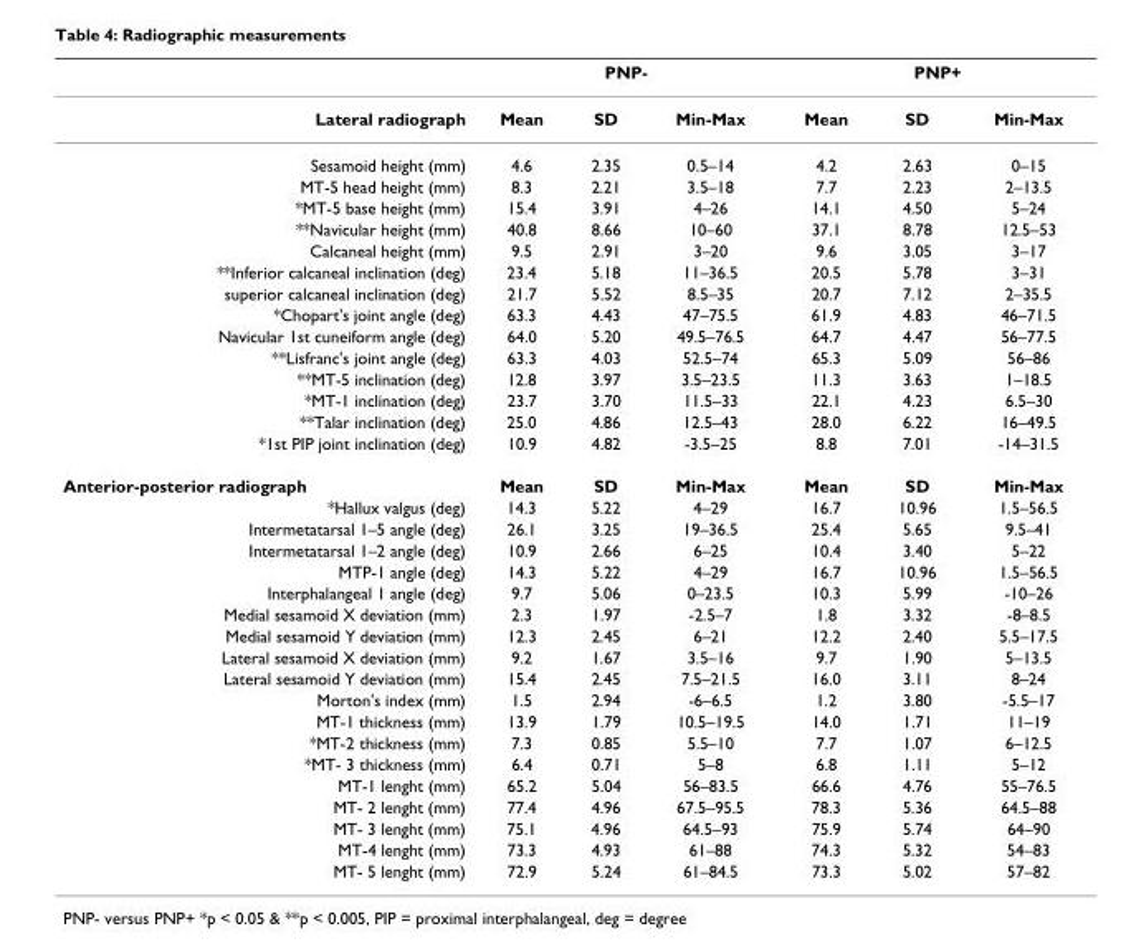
<table><thead><tr><td rowspan="2">Lateral radiograph</td><td colspan="3">PNP-</td><td colspan="3">PNP+</td></tr><tr><td>Mean</td><td>SD</td><td>Min-Max</td><td>Mean</td><td>SD</td><td>Min-Max</td></tr></thead><tbody><tr><td>Sesamoid height (mm)</td><td>4.6</td><td>2.35</td><td>0.5–14</td><td>4.2</td><td>2.63</td><td>0–15</td></tr><tr><td>MT-5 head height (mm)</td><td>8.3</td><td>2.21</td><td>3.5–18</td><td>7.7</td><td>2.23</td><td>2–13.5</td></tr><tr><td>*MT-5 base height (mm)</td><td>15.4</td><td>3.91</td><td>4–26</td><td>14.1</td><td>4.50</td><td>5–24</td></tr><tr><td>**Navicular height (mm)</td><td>40.8</td><td>8.66</td><td>10–60</td><td>37.1</td><td>8.78</td><td>12.5–53</td></tr><tr><td>Calcaneal height (mm)</td><td>9.5</td><td>2.91</td><td>3–20</td><td>9.6</td><td>3.05</td><td>3–17</td></tr><tr><td>**Inferior calcaneal inclination (deg)</td><td>23.4</td><td>5.18</td><td>11–36.5</td><td>20.5</td><td>5.78</td><td>3–31</td></tr><tr><td>superior calcaneal inclination (deg)</td><td>21.7</td><td>5.52</td><td>8.5–35</td><td>20.7</td><td>7.12</td><td>2–35.5</td></tr><tr><td>*Chopart&#x27;s joint angle (deg)</td><td>63.3</td><td>4.43</td><td>47–75.5</td><td>61.9</td><td>4.83</td><td>46–71.5</td></tr><tr><td>Navicular 1st cuneiform angle (deg)</td><td>64.0</td><td>5.20</td><td>49.5–76.5</td><td>64.7</td><td>4.47</td><td>56–77.5</td></tr><tr><td>**Lisfranc&#x27;s joint angle (deg)</td><td>63.3</td><td>4.03</td><td>52.5–74</td><td>65.3</td><td>5.09</td><td>56–86</td></tr><tr><td>**MT-5 inclination (deg)</td><td>12.8</td><td>3.97</td><td>3.5–23.5</td><td>11.3</td><td>3.63</td><td>1–18.5</td></tr><tr><td>*MT-1 inclination (deg)</td><td>23.7</td><td>3.70</td><td>11.5–33</td><td>22.1</td><td>4.23</td><td>6.5–30</td></tr><tr><td>**Talar inclination (deg)</td><td>25.0</td><td>4.86</td><td>12.5–43</td><td>28.0</td><td>6.22</td><td>16–49.5</td></tr><tr><td>*1st PIP joint inclination (deg)</td><td>10.9</td><td>4.82</td><td>-3.5–25</td><td>8.8</td><td>7.01</td><td>-14–31.5</td></tr><tr><td>Anterior-posterior radiograph</td><td>Mean</td><td>SD</td><td>Min-Max</td><td>Mean</td><td>SD</td><td>Min-Max</td></tr><tr><td>*Hallux valgus (deg)</td><td>14.3</td><td>5.22</td><td>4–29</td><td>16.7</td><td>10.96</td><td>1.5–56.5</td></tr><tr><td>Intermetatarsal 1–5 angle (deg)</td><td>26.1</td><td>3.25</td><td>19–36.5</td><td>25.4</td><td>5.65</td><td>9.5–41</td></tr><tr><td>Intermetatarsal 1–2 angle (deg)</td><td>10.9</td><td>2.66</td><td>6–25</td><td>10.4</td><td>3.40</td><td>5–22</td></tr><tr><td>MTP-1 angle (deg)</td><td>14.3</td><td>5.22</td><td>4–29</td><td>16.7</td><td>10.96</td><td>1.5–56.5</td></tr><tr><td>Interphalangeal 1 angle (deg)</td><td>9.7</td><td>5.06</td><td>0–23.5</td><td>10.3</td><td>5.99</td><td>-10–26</td></tr><tr><td>Medial sesamoid X deviation (mm)</td><td>2.3</td><td>1.97</td><td>-2.5–7</td><td>1.8</td><td>3.32</td><td>-8–8.5</td></tr><tr><td>Medial sesamoid Y deviation (mm)</td><td>12.3</td><td>2.45</td><td>6–21</td><td>12.2</td><td>2.40</td><td>5.5–17.5</td></tr><tr><td>Lateral sesamoid X deviation (mm)</td><td>9.2</td><td>1.67</td><td>3.5–16</td><td>9.7</td><td>1.90</td><td>5–13.5</td></tr><tr><td>Lateral sesamoid Y deviation (mm)</td><td>15.4</td><td>2.45</td><td>7.5–21.5</td><td>16.0</td><td>3.11</td><td>8–24</td></tr><tr><td>Morton&#x27;s index (mm)</td><td>1.5</td><td>2.94</td><td>-6–6.5</td><td>1.2</td><td>3.80</td><td>-5.5–17</td></tr><tr><td>MT-1 thickness (mm)</td><td>13.9</td><td>1.79</td><td>10.5–19.5</td><td>14.0</td><td>1.71</td><td>11–19</td></tr><tr><td>*MT-2 thickness (mm)</td><td>7.3</td><td>0.85</td><td>5.5–10</td><td>7.7</td><td>1.07</td><td>6–12.5</td></tr><tr><td>*MT- 3 thickness (mm)</td><td>6.4</td><td>0.71</td><td>5–8</td><td>6.8</td><td>1.11</td><td>5–12</td></tr><tr><td>MT-1 lenght (mm)</td><td>65.2</td><td>5.04</td><td>56–83.5</td><td>66.6</td><td>4.76</td><td>55–76.5</td></tr><tr><td>MT- 2 lenght (mm)</td><td>77.4</td><td>4.96</td><td>67.5–95.5</td><td>78.3</td><td>5.36</td><td>64.5–88</td></tr><tr><td>MT- 3 lenght (mm)</td><td>75.1</td><td>4.96</td><td>64.5–93</td><td>75.9</td><td>5.74</td><td>64–90</td></tr><tr><td>MT-4 lenght (mm)</td><td>73.3</td><td>4.93</td><td>61–88</td><td>74.3</td><td>5.32</td><td>54–83</td></tr><tr><td>MT- 5 lenght (mm)</td><td>72.9</td><td>5.24</td><td>61–84.5</td><td>73.3</td><td>5.02</td><td>57–82</td></tr></tbody></table>